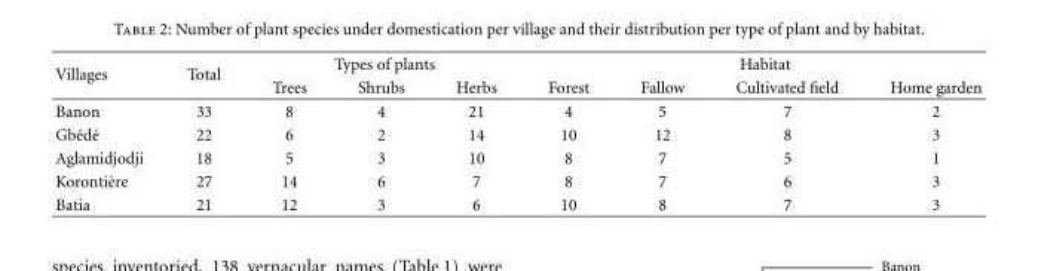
<table><thead><tr><td rowspan="2">Villages</td><td rowspan="2">Total</td><td colspan="3">Types of plants</td><td colspan="4">Habitat</td></tr><tr><td>Trees</td><td>Shrubs</td><td>Herbs</td><td>Forest</td><td>Fallow</td><td>Cultivated field</td><td>Home garden</td></tr></thead><tbody><tr><td>Banon</td><td>33</td><td>8</td><td>4</td><td>21</td><td>4</td><td>5</td><td>7</td><td>2</td></tr><tr><td>Gb´ed´e</td><td>22</td><td>6</td><td>2</td><td>14</td><td>10</td><td>12</td><td>8</td><td>3</td></tr><tr><td>Aglamidjodji</td><td>18</td><td>5</td><td>3</td><td>10</td><td>8</td><td>7</td><td>5</td><td>1</td></tr><tr><td>Koronti`ere</td><td>27</td><td>14</td><td>6</td><td>7</td><td>8</td><td>7</td><td>6</td><td>3</td></tr><tr><td>Batia</td><td>21</td><td>12</td><td>3</td><td>6</td><td>10</td><td>8</td><td>7</td><td>3</td></tr></tbody></table>